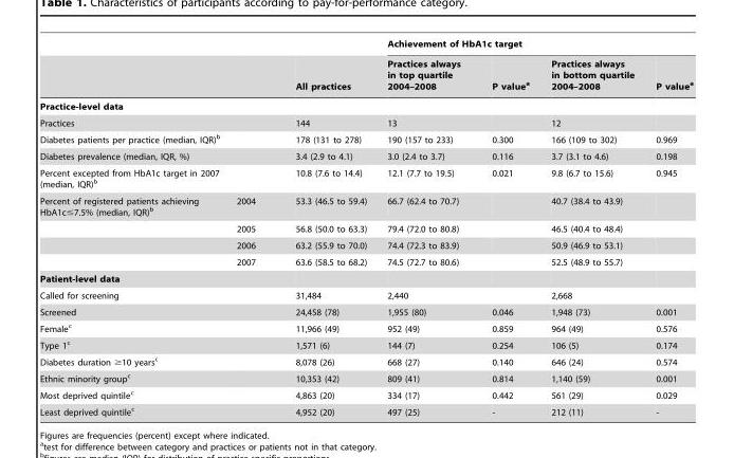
<table><thead><tr><td rowspan="2"></td><td rowspan="2"></td><td rowspan="2">All practices</td><td colspan="4">Achievement of HbA1c target</td></tr><tr><td>Practices always in top quartile 2004–2008</td><td>P value<sup>a</sup></td><td>Practices always in bottom quartile 2004–2008</td><td>P value<sup>a</sup></td></tr></thead><tbody><tr><td colspan="7">Practice-level data</td></tr><tr><td>Practices</td><td></td><td>144</td><td>13</td><td></td><td>12</td><td></td></tr><tr><td>Diabetes patients per practice (median, IQR)<sup>b</sup></td><td></td><td>178 (131 to 278)</td><td>190 (157 to 233)</td><td>0.300</td><td>166 (109 to 302)</td><td>0.969</td></tr><tr><td>Diabetes prevalence (median, IQR, %)</td><td></td><td>3.4 (2.9 to 4.1)</td><td>3.0 (2.4 to 3.7)</td><td>0.116</td><td>3.7 (3.1 to 4.6)</td><td>0.198</td></tr><tr><td>Percent excepted from HbA1c target in 2007 (median, IQR)<sup>b</sup></td><td></td><td>10.8 (7.6 to 14.4)</td><td>12.1 (7.7 to 19.5)</td><td>0.021</td><td>9.8 (6.7 to 15.6)</td><td>0.945</td></tr><tr><td rowspan="4">Percent of registered patients achieving HbA1c≤7.5% (median, IQR)<sup>b</sup></td><td>2004</td><td>53.3 (46.5 to 59.4)</td><td>66.7 (62.4 to 70.7)</td><td></td><td>40.7 (38.4 to 43.9)</td><td></td></tr><tr><td>2005</td><td>56.8 (50.0 to 63.3)</td><td>79.4 (72.0 to 80.8)</td><td></td><td>46.5 (40.4 to 48.4)</td><td></td></tr><tr><td>2006</td><td>63.2 (55.9 to 70.0)</td><td>74.4 (72.3 to 83.9)</td><td></td><td>50.9 (46.9 to 53.1)</td><td></td></tr><tr><td>2007</td><td>63.6 (58.5 to 68.2)</td><td>74.5 (72.7 to 80.6)</td><td></td><td>52.5 (48.9 to 55.7)</td><td></td></tr><tr><td colspan="7">Patient-level data</td></tr><tr><td>Called for screening</td><td></td><td>31,484</td><td>2,440</td><td></td><td>2,668</td><td></td></tr><tr><td>Screened</td><td></td><td>24,458 (78)</td><td>1,955 (80)</td><td>0.046</td><td>1,948 (73)</td><td>0.001</td></tr><tr><td>Female<sup>c</sup></td><td></td><td>11,966 (49)</td><td>952 (49)</td><td>0.859</td><td>964 (49)</td><td>0.576</td></tr><tr><td>Type 1<sup>c</sup></td><td></td><td>1,571 (6)</td><td>144 (7)</td><td>0.254</td><td>106 (5)</td><td>0.174</td></tr><tr><td>Diabetes duration ≥10 years<sup>c</sup></td><td></td><td>8,078 (26)</td><td>668 (27)</td><td>0.140</td><td>646 (24)</td><td>0.574</td></tr><tr><td>Ethnic minority group<sup>c</sup></td><td></td><td>10,353 (42)</td><td>809 (41)</td><td>0.814</td><td>1,140 (59)</td><td>0.001</td></tr><tr><td>Most deprived quintile<sup>c</sup></td><td></td><td>4,863 (20)</td><td>334 (17)</td><td>0.442</td><td>561 (29)</td><td>0.029</td></tr><tr><td>Least deprived quintile<sup>c</sup></td><td></td><td>4,952 (20)</td><td>497 (25)</td><td>-</td><td>212 (11)</td><td>-</td></tr></tbody></table>